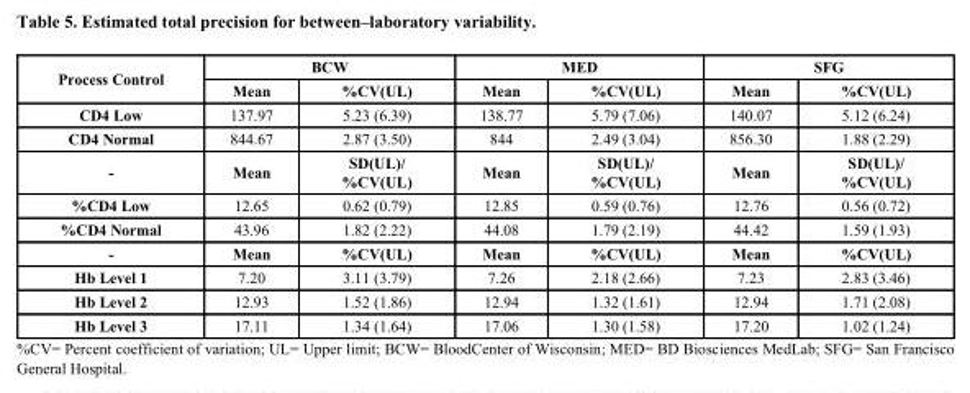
<table><thead><tr><td rowspan="2">Process Control</td><td colspan="2">BCW</td><td colspan="2">MED</td><td colspan="2">SFG</td></tr><tr><td>Mean</td><td>%CV(UL)</td><td>Mean</td><td>%CV(UL)</td><td>Mean</td><td>%CV(UL)</td></tr></thead><tbody><tr><td>CD4 Low</td><td>137.97</td><td>5.23 (6.39)</td><td>138.77</td><td>5.79 (7.06)</td><td>140.07</td><td>5.12 (6.24)</td></tr><tr><td>CD4 Normal</td><td>844.67</td><td>2.87 (3.50)</td><td>844</td><td>2.49 (3.04)</td><td>856.30</td><td>1.88 (2.29)</td></tr><tr><td>-</td><td>Mean</td><td>SD(UL)/ %CV(UL)</td><td>Mean</td><td>SD(UL)/ %CV(UL)</td><td>Mean</td><td>SD(UL)/ %CV(UL)</td></tr><tr><td>%CD4 Low</td><td>12.65</td><td>0.62 (0.79)</td><td>12.85</td><td>0.59 (0.76)</td><td>12.76</td><td>0.56 (0.72)</td></tr><tr><td>%CD4 Normal</td><td>43.96</td><td>1.82 (2.22)</td><td>44.08</td><td>1.79 (2.19)</td><td>44.42</td><td>1.59 (1.93)</td></tr><tr><td>-</td><td>Mean</td><td>%CV(UL)</td><td>Mean</td><td>%CV(UL)</td><td>Mean</td><td>%CV(UL)</td></tr><tr><td>Hb Level 1</td><td>7.20</td><td>3.11 (3.79)</td><td>7.26</td><td>2.18 (2.66)</td><td>7.23</td><td>2.83 (3.46)</td></tr><tr><td>Hb Level 2</td><td>12.93</td><td>1.52 (1.86)</td><td>12.94</td><td>1.32 (1.61)</td><td>12.94</td><td>1.71 (2.08)</td></tr><tr><td>Hb Level 3</td><td>17.11</td><td>1.34 (1.64)</td><td>17.06</td><td>1.30 (1.58)</td><td>17.20</td><td>1.02 (1.24)</td></tr></tbody></table>